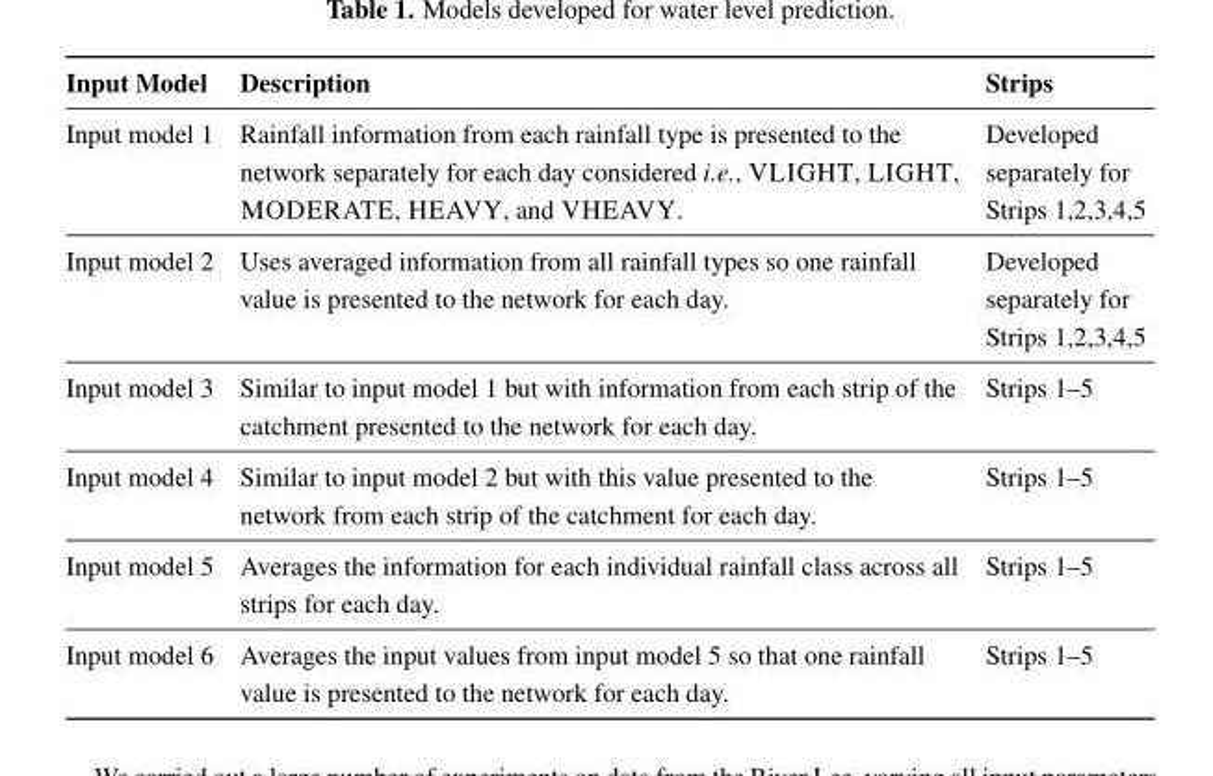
<table><thead><tr><td>Input Model</td><td>Description</td><td>Strips</td></tr></thead><tbody><tr><td>Input model 1</td><td>Rainfall information from each rainfall type is presented to the network separately for each day considered i.e., VLIGHT, LIGHT, MODERATE, HEAVY, and VHEAVY.</td><td>Developed separately for Strips 1,2,3,4,5</td></tr><tr><td>Input model 2</td><td>Uses averaged information from all rainfall types so one rainfall value is presented to the network for each day.</td><td>Developed separately for Strips 1,2,3,4,5</td></tr><tr><td>Input model 3</td><td>Similar to input model 1 but with information from each strip of the catchment presented to the network for each day.</td><td>Strips 1–5</td></tr><tr><td>Input model 4</td><td>Similar to input model 2 but with this value presented to the network from each strip of the catchment for each day.</td><td>Strips 1–5</td></tr><tr><td>Input model 5</td><td>Averages the information for each individual rainfall class across all strips for each day.</td><td>Strips 1–5</td></tr><tr><td>Input model 6</td><td>Averages the input values from input model 5 so that one rainfall value is presented to the network for each day.</td><td>Strips 1–5</td></tr></tbody></table>